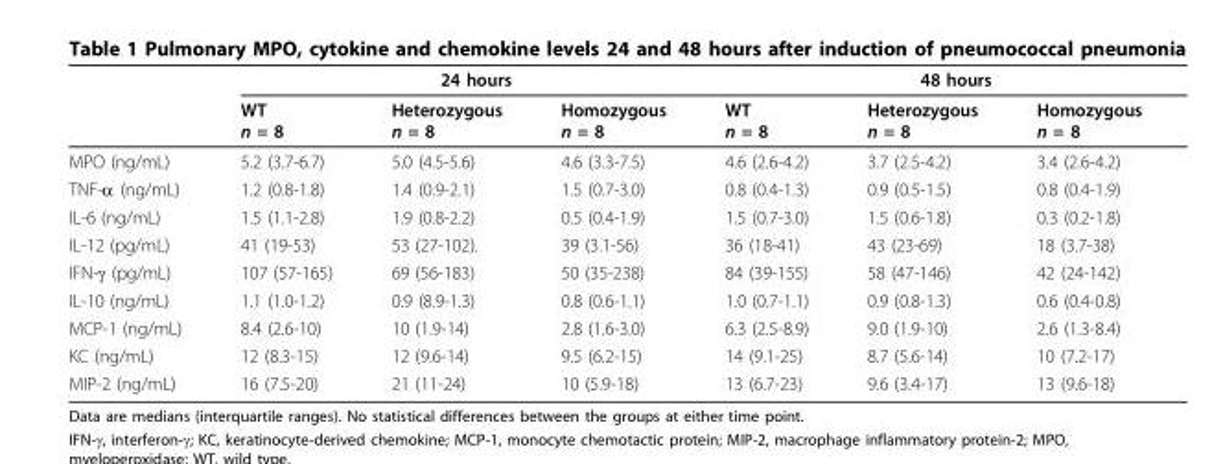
<table><thead><tr><td rowspan="2"></td><td colspan="3">24 hours</td><td colspan="3">48 hours</td></tr><tr><td>WT n = 8</td><td>Heterozygous n = 8</td><td>Homozygous n = 8</td><td>WT n = 8</td><td>Heterozygous n = 8</td><td>Homozygous n = 8</td></tr></thead><tbody><tr><td>MPO (ng/mL)</td><td>5.2 (3.7-6.7)</td><td>5.0 (4.5-5.6)</td><td>4.6 (3.3-7.5)</td><td>4.6 (2.6-4.2)</td><td>3.7 (2.5-4.2)</td><td>3.4 (2.6-4.2)</td></tr><tr><td>TNF-α (ng/mL)</td><td>1.2 (0.8-1.8)</td><td>1.4 (0.9-2.1)</td><td>1.5 (0.7-3.0)</td><td>0.8 (0.4-1.3)</td><td>0.9 (0.5-1.5)</td><td>0.8 (0.4-1.9)</td></tr><tr><td>IL-6 (ng/mL)</td><td>1.5 (1.1-2.8)</td><td>1.9 (0.8-2.2)</td><td>0.5 (0.4-1.9)</td><td>1.5 (0.7-3.0)</td><td>1.5 (0.6-1.8)</td><td>0.3 (0.2-1.8)</td></tr><tr><td>IL-12 (pg/mL)</td><td>41 (19-53)</td><td>53 (27-102).</td><td>39 (3.1-56)</td><td>36 (18-41)</td><td>43 (23-69)</td><td>18 (3.7-38)</td></tr><tr><td>IFN-γ (pg/mL)</td><td>107 (57-165)</td><td>69 (56-183)</td><td>50 (35-238)</td><td>84 (39-155)</td><td>58 (47-146)</td><td>42 (24-142)</td></tr><tr><td>IL-10 (ng/mL)</td><td>1.1 (1.0-1.2)</td><td>0.9 (8.9-1.3)</td><td>0.8 (0.6-1.1)</td><td>1.0 (0.7-1.1)</td><td>0.9 (0.8-1.3)</td><td>0.6 (0.4-0.8)</td></tr><tr><td>MCP-1 (ng/mL)</td><td>8.4 (2.6-10)</td><td>10 (1.9-14)</td><td>2.8 (1.6-3.0)</td><td>6.3 (2.5-8.9)</td><td>9.0 (1.9-10)</td><td>2.6 (1.3-8.4)</td></tr><tr><td>KC (ng/mL)</td><td>12 (8.3-15)</td><td>12 (9.6-14)</td><td>9.5 (6.2-15)</td><td>14 (9.1-25)</td><td>8.7 (5.6-14)</td><td>10 (7.2-17)</td></tr><tr><td>MIP-2 (ng/mL)</td><td>16 (7.5-20)</td><td>21 (11-24)</td><td>10 (5.9-18)</td><td>13 (6.7-23)</td><td>9.6 (3.4-17)</td><td>13 (9.6-18)</td></tr></tbody></table>